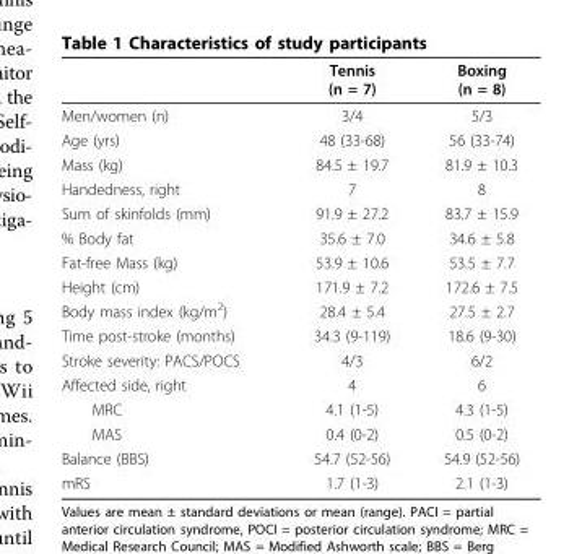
<table><thead><tr><td></td><td>Tennis (n = 7)</td><td>Boxing (n = 8)</td></tr></thead><tbody><tr><td>Men/women (n)</td><td>3/4</td><td>5/3</td></tr><tr><td>Age (yrs)</td><td>48 (33-68)</td><td>56 (33-74)</td></tr><tr><td>Mass (kg)</td><td>84.5 ± 19.7</td><td>81.9 ± 10.3</td></tr><tr><td>Handedness, right</td><td>7</td><td>8</td></tr><tr><td>Sum of skinfolds (mm)</td><td>91.9 ± 27.2</td><td>83.7 ± 15.9</td></tr><tr><td>% Body fat</td><td>35.6 ± 7.0</td><td>34.6 ± 5.8</td></tr><tr><td>Fat-free Mass (kg)</td><td>53.9 ± 10.6</td><td>53.5 ± 7.7</td></tr><tr><td>Height (cm)</td><td>171.9 ± 7.2</td><td>172.6 ± 7.5</td></tr><tr><td>Body mass index (kg/m<sup>2</sup>)</td><td>28.4 ± 5.4</td><td>27.5 ± 2.7</td></tr><tr><td>Time post-stroke (months)</td><td>34.3 (9-119)</td><td>18.6 (9-30)</td></tr><tr><td>Stroke severity: PACS/POCS</td><td>4/3</td><td>6/2</td></tr><tr><td>Affected side, right</td><td>4</td><td>6</td></tr><tr><td>MRC</td><td>4.1 (1-5)</td><td>4.3 (1-5)</td></tr><tr><td>MAS</td><td>0.4 (0-2)</td><td>0.5 (0-2)</td></tr><tr><td>Balance (BBS)</td><td>54.7 (52-56)</td><td>54.9 (52-56)</td></tr><tr><td>mRS</td><td>1.7 (1-3)</td><td>2.1 (1-3)</td></tr></tbody></table>